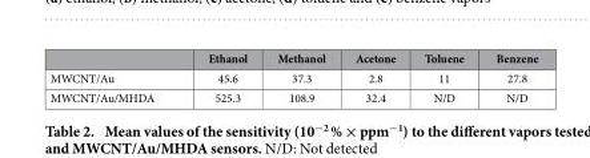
<table><thead><tr><td></td><td>Ethanol</td><td>Methanol</td><td>Acetone</td><td>Toluene</td><td>Benzene</td></tr></thead><tbody><tr><td>MWCNT/Au</td><td>45.6</td><td>37.3</td><td>2.8</td><td>11</td><td>27.8</td></tr><tr><td>MWCNT/Au/MHDA</td><td>525.3</td><td>108.9</td><td>32.4</td><td>N/D</td><td>N/D</td></tr></tbody></table>